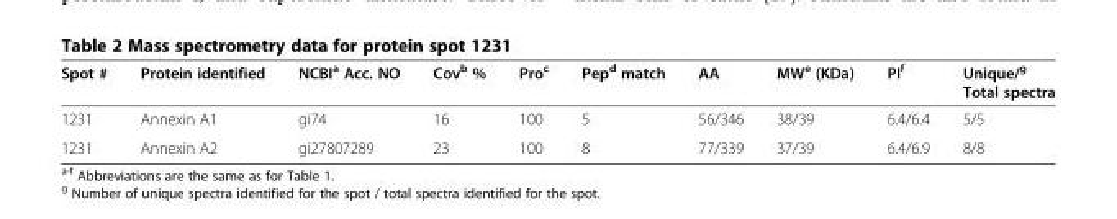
<table><thead><tr><td>Spot #</td><td>Protein identified</td><td>NCBI<sup>a</sup> Acc. NO</td><td>Cov<sup>b</sup> %</td><td>Pro<sup>c</sup></td><td>Pep<sup>d</sup> match</td><td>AA</td><td>MW<sup>e</sup> (KDa)</td><td>PI<sup>f</sup></td><td>Unique/<sup>g</sup> Total spectra</td></tr></thead><tbody><tr><td>1231</td><td>Annexin A1</td><td>gi74</td><td>16</td><td>100</td><td>5</td><td>56/346</td><td>38/39</td><td>6.4/6.4</td><td>5/5</td></tr><tr><td>1231</td><td>Annexin A2</td><td>gi27807289</td><td>23</td><td>100</td><td>8</td><td>77/339</td><td>37/39</td><td>6.4/6.9</td><td>8/8</td></tr></tbody></table>